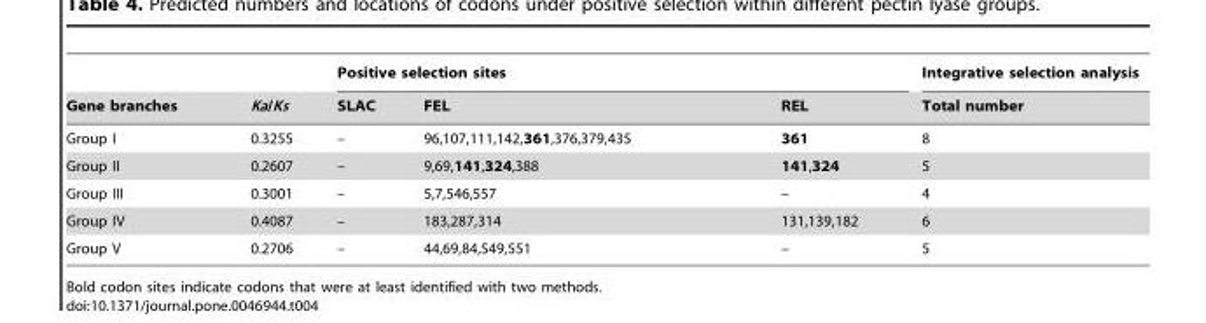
<table><thead><tr><td rowspan="2">Gene branches</td><td rowspan="2">Ka/Ks</td><td colspan="3">Positive selection sites</td><td rowspan="2">Integrative selection analysis Total number</td></tr><tr><td>SLAC</td><td>FEL</td><td>REL</td></tr></thead><tbody><tr><td>Group I</td><td>0.3255</td><td>–</td><td>96,107,111,142,361,376,379,435</td><td>361</td><td>8</td></tr><tr><td>Group II</td><td>0.2607</td><td>–</td><td>9,69,141,324,388</td><td>141,324</td><td>5</td></tr><tr><td>Group III</td><td>0.3001</td><td>–</td><td>5,7,546,557</td><td>–</td><td>4</td></tr><tr><td>Group IV</td><td>0.4087</td><td>–</td><td>183,287,314</td><td>131,139,182</td><td>6</td></tr><tr><td>Group V</td><td>0.2706</td><td>–</td><td>44,69,84,549,551</td><td>–</td><td>5</td></tr></tbody></table>